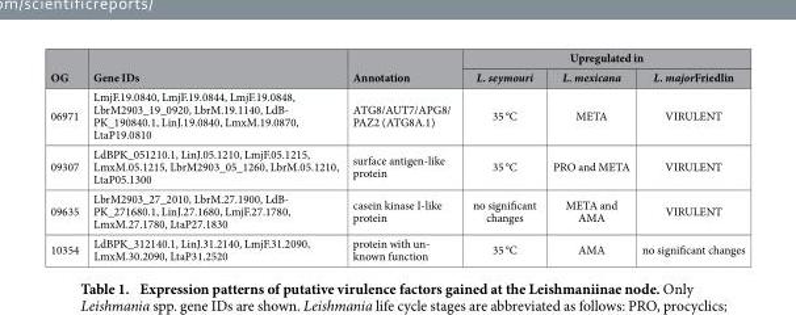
<table><thead><tr><td rowspan="2">OG</td><td rowspan="2">Gene IDs</td><td rowspan="2">Annotation</td><td colspan="3">Upregulated in</td></tr><tr><td>L. seymouri</td><td>L. mexicana</td><td>L. majorFriedlin</td></tr></thead><tbody><tr><td>06971</td><td>LmjF.19.0840, LmjF.19.0844, LmjF.19.0848, LbrM2903_19_0920, LbrM.19.1140, LdB- PK_190840.1, LinJ.19.0840, LmxM.19.0870, LtaP19.0810</td><td>ATG8/AUT7/APG8/ PAZ2 (ATG8A.1)</td><td>35 °C</td><td>META</td><td>VIRULENT</td></tr><tr><td>09307</td><td>LdBPK_051210.1, LinJ.05.1210, LmjF.05.1215, LmxM.05.1215, LbrM2903_05_1260, LbrM.05.1210, LtaP05.1300</td><td>surface antigen-like protein</td><td>35 °C</td><td>PRO and META</td><td>VIRULENT</td></tr><tr><td>09635</td><td>LbrM2903_27_2010, LbrM.27.1900, LdB- PK_271680.1, LinJ.27.1680, LmjF.27.1780, LmxM.27.1780, LtaP27.1830</td><td>casein kinase I-like protein</td><td>no significant changes</td><td>META and AMA</td><td>VIRULENT</td></tr><tr><td>10354</td><td>LdBPK_312140.1, LinJ.31.2140, LmjF.31.2090, LmxM.30.2090, LtaP31.2520</td><td>protein with un- known function</td><td>35 °C</td><td>AMA</td><td>no significant changes</td></tr></tbody></table>